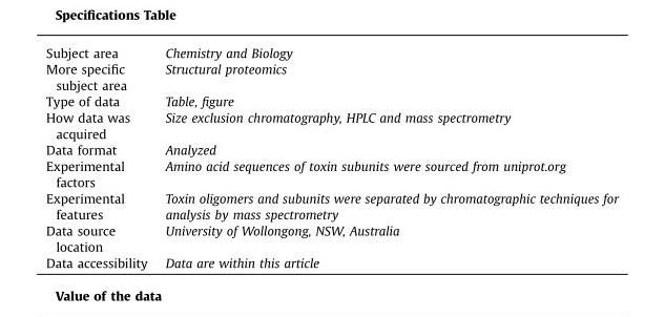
<table><tbody><tr><td>Subject area</td><td>Chemistry and Biology</td></tr><tr><td>More specific subject area</td><td>Structural proteomics</td></tr><tr><td>Type of data</td><td>Table, figure</td></tr><tr><td>How data was acquired</td><td>Size exclusion chromatography, HPLC and mass spectrometry</td></tr><tr><td>Data format</td><td>Analyzed</td></tr><tr><td>Experimental factors</td><td>Amino acid sequences of toxin subunits were sourced from uniprot.org</td></tr><tr><td>Experimental features</td><td>Toxin oligomers and subunits were separated by chromatographic techniques for analysis by mass spectrometry</td></tr><tr><td>Data source location</td><td>University of Wollongong, NSW, Australia</td></tr><tr><td>Data accessibility</td><td>Data are within this article</td></tr></tbody></table>